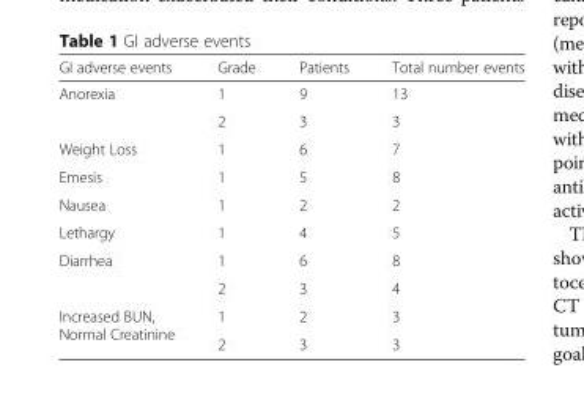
<table><thead><tr><td>GI adverse events</td><td>Grade</td><td>Patients</td><td>Total number events</td></tr></thead><tbody><tr><td rowspan="2">Anorexia</td><td>1</td><td>9</td><td>13</td></tr><tr><td>2</td><td>3</td><td>3</td></tr><tr><td>Weight Loss</td><td>1</td><td>6</td><td>7</td></tr><tr><td>Emesis</td><td>1</td><td>5</td><td>8</td></tr><tr><td>Nausea</td><td>1</td><td>2</td><td>2</td></tr><tr><td>Lethargy</td><td>1</td><td>4</td><td>5</td></tr><tr><td rowspan="2">Diarrhea</td><td>1</td><td>6</td><td>8</td></tr><tr><td>2</td><td>3</td><td>4</td></tr><tr><td rowspan="2">Increased BUN, Normal Creatinine</td><td>1</td><td>2</td><td>3</td></tr><tr><td>2</td><td>3</td><td>3</td></tr></tbody></table>